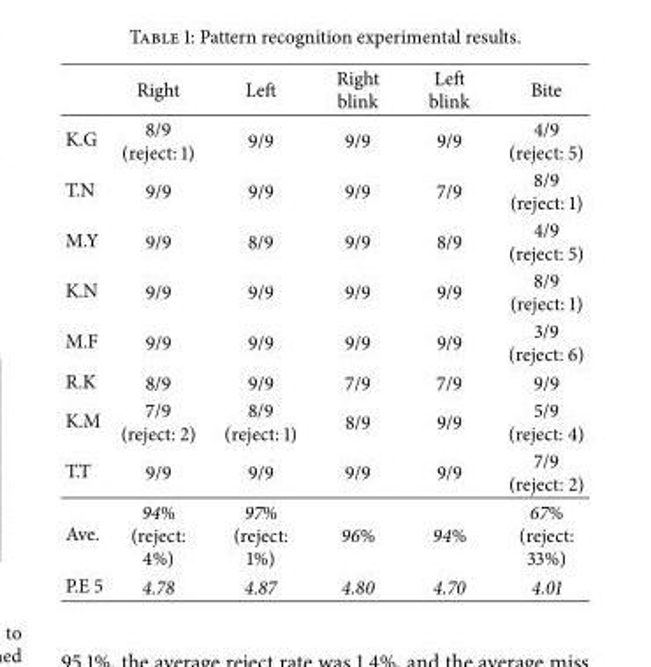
<table><thead><tr><td></td><td>Right</td><td>Left</td><td>Right blink</td><td>Left blink</td><td>Bite</td></tr></thead><tbody><tr><td>K.G</td><td>8/9 (reject: 1)</td><td>9/9</td><td>9/9</td><td>9/9</td><td>4/9 (reject: 5)</td></tr><tr><td>T.N</td><td>9/9</td><td>9/9</td><td>9/9</td><td>7/9</td><td>8/9 (reject: 1)</td></tr><tr><td>M.Y</td><td>9/9</td><td>8/9</td><td>9/9</td><td>8/9</td><td>4/9 (reject: 5)</td></tr><tr><td>K.N</td><td>9/9</td><td>9/9</td><td>9/9</td><td>9/9</td><td>8/9 (reject: 1)</td></tr><tr><td>M.F</td><td>9/9</td><td>9/9</td><td>9/9</td><td>9/9</td><td>3/9 (reject: 6)</td></tr><tr><td>R.K</td><td>8/9</td><td>9/9</td><td>7/9</td><td>7/9</td><td>9/9</td></tr><tr><td>K.M</td><td>7/9 (reject: 2)</td><td>8/9 (reject: 1)</td><td>8/9</td><td>9/9</td><td>5/9 (reject: 4)</td></tr><tr><td>T.T</td><td>9/9</td><td>9/9</td><td>9/9</td><td>9/9</td><td>7/9 (reject: 2)</td></tr><tr><td>Ave.</td><td>94% (reject: 4%)</td><td>97% (reject: 1%)</td><td>96%</td><td>94%</td><td>67% (reject: 33%)</td></tr><tr><td>P.E 5</td><td>4.78</td><td>4.87</td><td>4.80</td><td>4.70</td><td>4.01</td></tr></tbody></table>